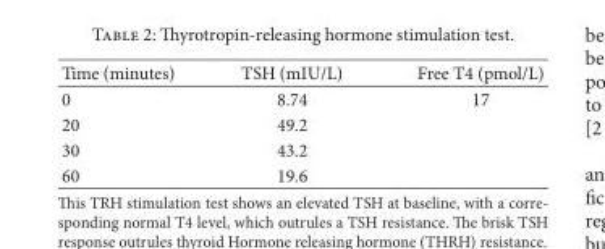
<table><thead><tr><td>Time (minutes)</td><td>TSH (mIU/L)</td><td>Free T4 (pmol/L)</td></tr></thead><tbody><tr><td>0</td><td>8.74</td><td>17</td></tr><tr><td>20</td><td>49.2</td><td></td></tr><tr><td>30</td><td>43.2</td><td></td></tr><tr><td>60</td><td>19.6</td><td></td></tr></tbody></table>